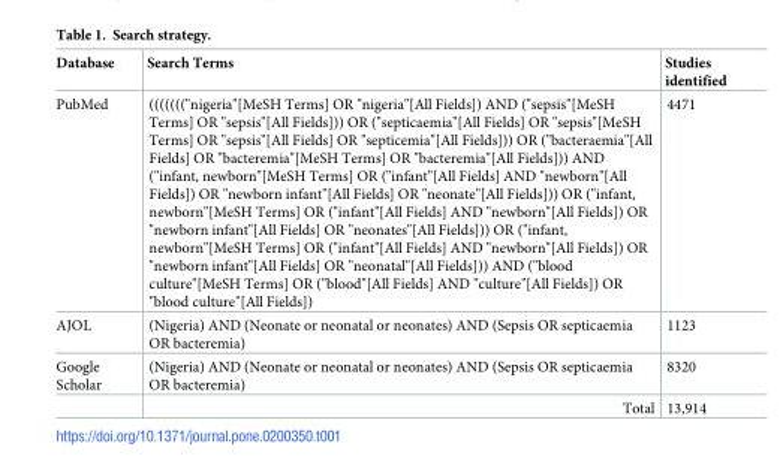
<table><thead><tr><td>Database</td><td>Search Terms</td><td>Studies identified</td></tr></thead><tbody><tr><td>PubMed</td><td>(((((((&quot;nigeria&quot;[MeSH Terms] OR &quot;nigeria&quot;[All Fields]) AND (&quot;sepsis&quot;[MeSH Terms] OR &quot;sepsis&quot;[All Fields])) OR (&quot;septicaemia&quot;[All Fields] OR &quot;sepsis&quot;[MeSH Terms] OR &quot;sepsis&quot;[All Fields] OR &quot;septicemia&quot;[All Fields])) OR (&quot;bacteraemia&quot;[All Fields] OR &quot;bacteremia&quot;[MeSH Terms] OR &quot;bacteremia&quot;[All Fields])) AND (&quot;infant, newborn&quot;[MeSH Terms] OR (&quot;infant&quot;[All Fields] AND &quot;newborn&quot;[All Fields]) OR &quot;newborn infant&quot;[All Fields] OR &quot;neonate&quot;[All Fields])) OR (&quot;infant, newborn&quot;[MeSH Terms] OR (&quot;infant&quot;[All Fields] AND &quot;newborn&quot;[All Fields]) OR &quot;newborn infant&quot;[All Fields] OR &quot;neonates&quot;[All Fields])) OR (&quot;infant, newborn&quot;[MeSH Terms] OR (&quot;infant&quot;[All Fields] AND &quot;newborn&quot;[All Fields]) OR &quot;newborn infant&quot;[All Fields] OR &quot;neonatal&quot;[All Fields])) AND (&quot;blood culture&quot;[MeSH Terms] OR (&quot;blood&quot;[All Fields] AND &quot;culture&quot;[All Fields]) OR &quot;blood culture&quot;[All Fields])</td><td>4471</td></tr><tr><td>AJOL</td><td>(Nigeria) AND (Neonate or neonatal or neonates) AND (Sepsis OR septicaemia OR bacteremia)</td><td>1123</td></tr><tr><td rowspan="2">Google Scholar</td><td>(Nigeria) AND (Neonate or neonatal or neonates) AND (Sepsis OR septicaemia OR bacteremia)</td><td>8320</td></tr><tr><td>Total</td><td>13,914</td></tr></tbody></table>